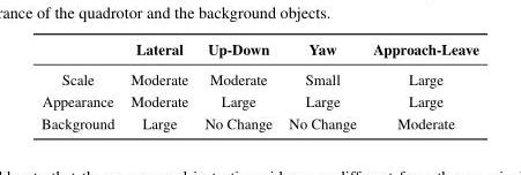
<table><thead><tr><td></td><td>Lateral</td><td>Up-Down</td><td>Yaw</td><td>Approach-Leave</td></tr></thead><tbody><tr><td>Scale</td><td>Moderate</td><td>Moderate</td><td>Small</td><td>Large</td></tr><tr><td>Appearance</td><td>Moderate</td><td>Large</td><td>Large</td><td>Large</td></tr><tr><td>Background</td><td>Large</td><td>No Change</td><td>No Change</td><td>Moderate</td></tr></tbody></table>